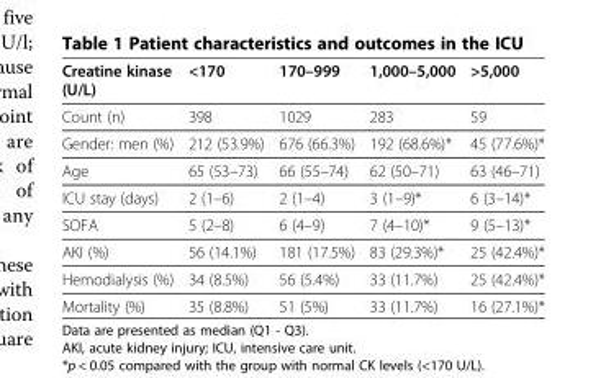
<table><thead><tr><td>Creatine kinase (U/L)</td><td>&lt;170</td><td>170–999</td><td>1,000–5,000</td><td>&gt;5,000</td></tr></thead><tbody><tr><td>Count (n)</td><td>398</td><td>1029</td><td>283</td><td>59</td></tr><tr><td>Gender: men (%)</td><td>212 (53.9%)</td><td>676 (66.3%)</td><td>192 (68.6%)*</td><td>45 (77.6%)*</td></tr><tr><td>Age</td><td>65 (53–73)</td><td>66 (55–74)</td><td>62 (50–71)</td><td>63 (46–71)</td></tr><tr><td>ICU stay (days)</td><td>2 (1–6)</td><td>2 (1–4)</td><td>3 (1–9)*</td><td>6 (3–14)*</td></tr><tr><td>SOFA</td><td>5 (2–8)</td><td>6 (4–9)</td><td>7 (4–10)*</td><td>9 (5–13)*</td></tr><tr><td>AKI (%)</td><td>56 (14.1%)</td><td>181 (17.5%)</td><td>83 (29.3%)*</td><td>25 (42.4%)*</td></tr><tr><td>Hemodialysis (%)</td><td>34 (8.5%)</td><td>56 (5.4%)</td><td>33 (11.7%)</td><td>25 (42.4%)*</td></tr><tr><td>Mortality (%)</td><td>35 (8.8%)</td><td>51 (5%)</td><td>33 (11.7%)</td><td>16 (27.1%)*</td></tr></tbody></table>